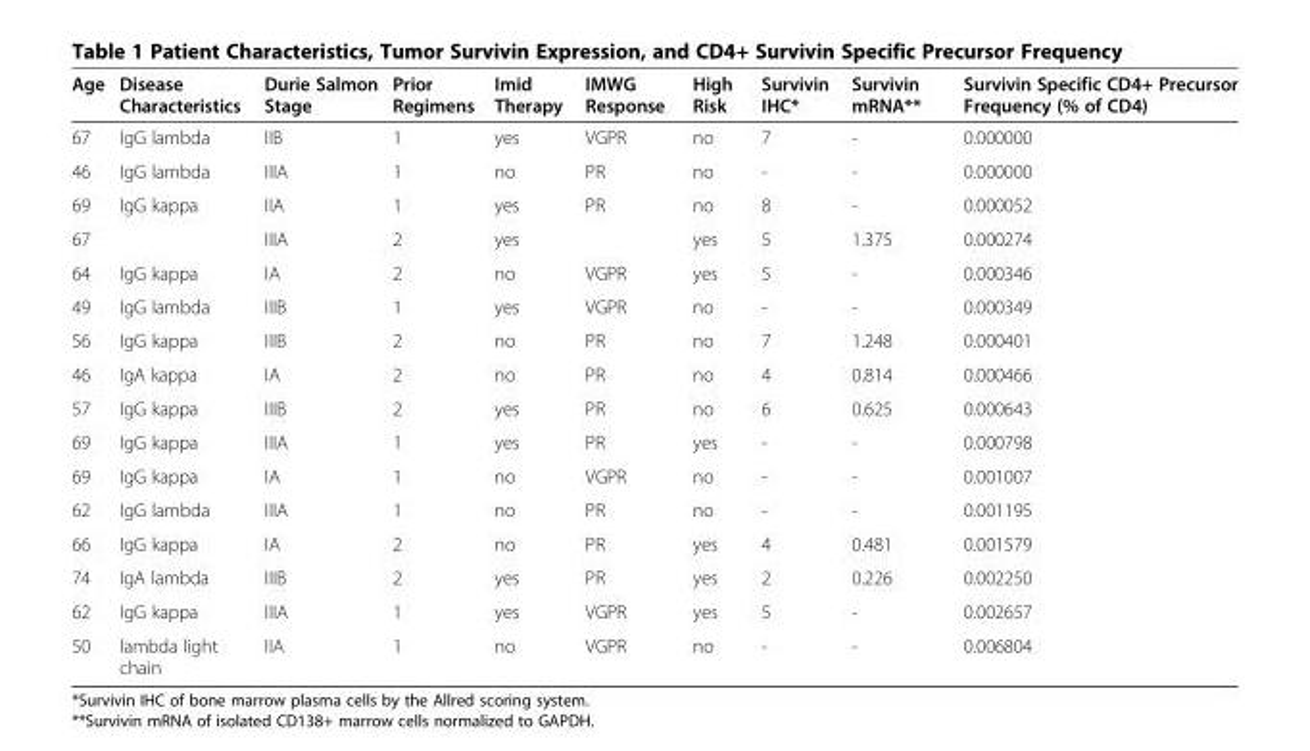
<table><thead><tr><td>Age</td><td>Disease Characteristics</td><td>Durie Salmon Stage</td><td>Prior Regimens</td><td>Imid Therapy</td><td>IMWG Response</td><td>High Risk</td><td>Survivin IHC*</td><td>Survivin mRNA**</td><td>Survivin Specific CD4+ Precursor Frequency (% of CD4)</td></tr></thead><tbody><tr><td>67</td><td>IgG lambda</td><td>IIB</td><td>1</td><td>yes</td><td>VGPR</td><td>no</td><td>7</td><td>-</td><td>0.000000</td></tr><tr><td>46</td><td>IgG lambda</td><td>IIIA</td><td>1</td><td>no</td><td>PR</td><td>no</td><td>-</td><td>-</td><td>0.000000</td></tr><tr><td>69</td><td>IgG kappa</td><td>IIA</td><td>1</td><td>yes</td><td>PR</td><td>no</td><td>8</td><td>-</td><td>0.000052</td></tr><tr><td>67</td><td></td><td>IIIA</td><td>2</td><td>yes</td><td></td><td>yes</td><td>5</td><td>1.375</td><td>0.000274</td></tr><tr><td>64</td><td>IgG kappa</td><td>IA</td><td>2</td><td>no</td><td>VGPR</td><td>yes</td><td>5</td><td>-</td><td>0.000346</td></tr><tr><td>49</td><td>IgG lambda</td><td>IIIB</td><td>1</td><td>yes</td><td>VGPR</td><td>no</td><td>-</td><td>-</td><td>0.000349</td></tr><tr><td>56</td><td>IgG kappa</td><td>IIIB</td><td>2</td><td>no</td><td>PR</td><td>no</td><td>7</td><td>1.248</td><td>0.000401</td></tr><tr><td>46</td><td>IgA kappa</td><td>IA</td><td>2</td><td>no</td><td>PR</td><td>no</td><td>4</td><td>0.814</td><td>0.000466</td></tr><tr><td>57</td><td>IgG kappa</td><td>IIIB</td><td>2</td><td>yes</td><td>PR</td><td>no</td><td>6</td><td>0.625</td><td>0.000643</td></tr><tr><td>69</td><td>IgG kappa</td><td>IIIA</td><td>1</td><td>yes</td><td>PR</td><td>yes</td><td>-</td><td>-</td><td>0.000798</td></tr><tr><td>69</td><td>IgG kappa</td><td>IA</td><td>1</td><td>no</td><td>VGPR</td><td>no</td><td>-</td><td>-</td><td>0.001007</td></tr><tr><td>62</td><td>IgG lambda</td><td>IIIA</td><td>1</td><td>no</td><td>PR</td><td>no</td><td>-</td><td>-</td><td>0.001195</td></tr><tr><td>66</td><td>IgG kappa</td><td>IA</td><td>2</td><td>no</td><td>PR</td><td>yes</td><td>4</td><td>0.481</td><td>0.001579</td></tr><tr><td>74</td><td>IgA lambda</td><td>IIIB</td><td>2</td><td>yes</td><td>PR</td><td>yes</td><td>2</td><td>0.226</td><td>0.002250</td></tr><tr><td>62</td><td>IgG kappa</td><td>IIIA</td><td>1</td><td>yes</td><td>VGPR</td><td>yes</td><td>5</td><td>-</td><td>0.002657</td></tr><tr><td>50</td><td>lambda light chain</td><td>IIA</td><td>1</td><td>no</td><td>VGPR</td><td>no</td><td>-</td><td>-</td><td>0.006804</td></tr></tbody></table>